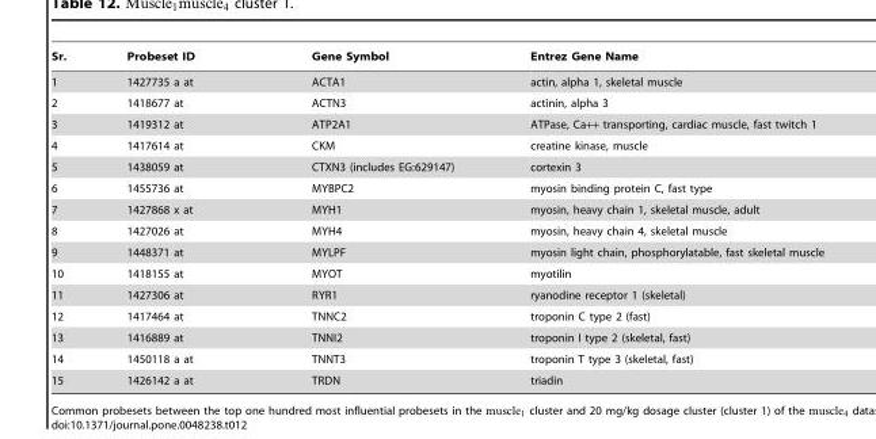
<table><thead><tr><td>Sr.</td><td>Probeset ID</td><td>Gene Symbol</td><td>Entrez Gene Name</td></tr></thead><tbody><tr><td>1</td><td>1427735 a at</td><td>ACTA1</td><td>actin, alpha 1, skeletal muscle</td></tr><tr><td>2</td><td>1418677 at</td><td>ACTN3</td><td>actinin, alpha 3</td></tr><tr><td>3</td><td>1419312 at</td><td>ATP2A1</td><td>ATPase, Ca++ transporting, cardiac muscle, fast twitch 1</td></tr><tr><td>4</td><td>1417614 at</td><td>CKM</td><td>creatine kinase, muscle</td></tr><tr><td>5</td><td>1438059 at</td><td>CTXN3 (includes EG:629147)</td><td>cortexin 3</td></tr><tr><td>6</td><td>1455736 at</td><td>MYBPC2</td><td>myosin binding protein C, fast type</td></tr><tr><td>7</td><td>1427868 x at</td><td>MYH1</td><td>myosin, heavy chain 1, skeletal muscle, adult</td></tr><tr><td>8</td><td>1427026 at</td><td>MYH4</td><td>myosin, heavy chain 4, skeletal muscle</td></tr><tr><td>9</td><td>1448371 at</td><td>MYLPF</td><td>myosin light chain, phosphorylatable, fast skeletal muscle</td></tr><tr><td>10</td><td>1418155 at</td><td>MYOT</td><td>myotilin</td></tr><tr><td>11</td><td>1427306 at</td><td>RYR1</td><td>ryanodine receptor 1 (skeletal)</td></tr><tr><td>12</td><td>1417464 at</td><td>TNNC2</td><td>troponin C type 2 (fast)</td></tr><tr><td>13</td><td>1416889 at</td><td>TNNI2</td><td>troponin I type 2 (skeletal, fast)</td></tr><tr><td>14</td><td>1450118 a at</td><td>TNNT3</td><td>troponin T type 3 (skeletal, fast)</td></tr><tr><td>15</td><td>1426142 a at</td><td>TRDN</td><td>triadin</td></tr></tbody></table>